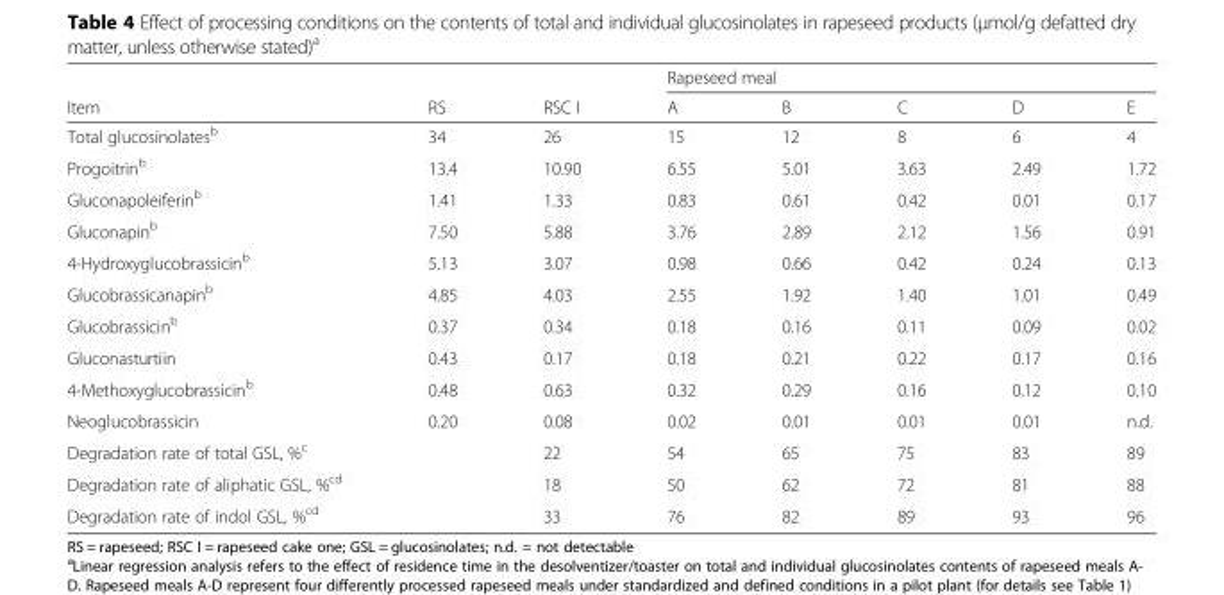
<table><thead><tr><td rowspan="2">Item</td><td rowspan="2">RS</td><td rowspan="2">RSC I</td><td colspan="5">Rapeseed meal</td></tr><tr><td>A</td><td>B</td><td>C</td><td>D</td><td>E</td></tr></thead><tbody><tr><td>Total glucosinolates<sup>b</sup></td><td>34</td><td>26</td><td>15</td><td>12</td><td>8</td><td>6</td><td>4</td></tr><tr><td>Progoitrin<sup>b</sup></td><td>13.4</td><td>10.90</td><td>6.55</td><td>5.01</td><td>3.63</td><td>2.49</td><td>1.72</td></tr><tr><td>Gluconapoleiferin<sup>b</sup></td><td>1.41</td><td>1.33</td><td>0.83</td><td>0.61</td><td>0.42</td><td>0.01</td><td>0.17</td></tr><tr><td>Gluconapin<sup>b</sup></td><td>7.50</td><td>5.88</td><td>3.76</td><td>2.89</td><td>2.12</td><td>1.56</td><td>0.91</td></tr><tr><td>4-Hydroxyglucobrassicin<sup>b</sup></td><td>5.13</td><td>3.07</td><td>0.98</td><td>0.66</td><td>0.42</td><td>0.24</td><td>0.13</td></tr><tr><td>Glucobrassicanapin<sup>b</sup></td><td>4.85</td><td>4.03</td><td>2.55</td><td>1.92</td><td>1.40</td><td>1.01</td><td>0.49</td></tr><tr><td>Glucobrassicin<sup>b</sup></td><td>0.37</td><td>0.34</td><td>0.18</td><td>0.16</td><td>0.11</td><td>0.09</td><td>0.02</td></tr><tr><td>Gluconasturtiin</td><td>0.43</td><td>0.17</td><td>0.18</td><td>0.21</td><td>0.22</td><td>0.17</td><td>0.16</td></tr><tr><td>4-Methoxyglucobrassicin<sup>b</sup></td><td>0.48</td><td>0.63</td><td>0.32</td><td>0.29</td><td>0.16</td><td>0.12</td><td>0.10</td></tr><tr><td>Neoglucobrassicin</td><td>0.20</td><td>0.08</td><td>0.02</td><td>0.01</td><td>0.01</td><td>0.01</td><td>n.d.</td></tr><tr><td>Degradation rate of total GSL, %<sup>c</sup></td><td></td><td>22</td><td>54</td><td>65</td><td>75</td><td>83</td><td>89</td></tr><tr><td>Degradation rate of aliphatic GSL, %<sup>cd</sup></td><td></td><td>18</td><td>50</td><td>62</td><td>72</td><td>81</td><td>88</td></tr><tr><td>Degradation rate of indol GSL, %<sup>cd</sup></td><td></td><td>33</td><td>76</td><td>82</td><td>89</td><td>93</td><td>96</td></tr></tbody></table>